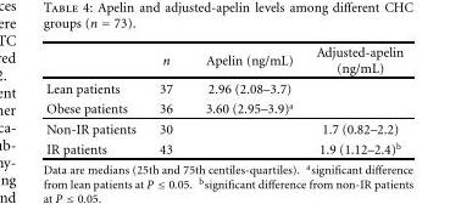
<table><thead><tr><td></td><td>n</td><td>Apelin (ng/mL)</td><td>Adjusted-apelin (ng/mL)</td></tr></thead><tbody><tr><td>Lean patients</td><td>37</td><td>2.96 (2.08–3.7)</td><td></td></tr><tr><td>Obese patients</td><td>36</td><td>3.60 (2.95–3.9)<sup>a</sup></td><td></td></tr><tr><td>Non-IR patients</td><td>30</td><td></td><td>1.7 (0.82–2.2)</td></tr><tr><td>IR patients</td><td>43</td><td></td><td>1.9 (1.12–2.4)<sup>b</sup></td></tr></tbody></table>